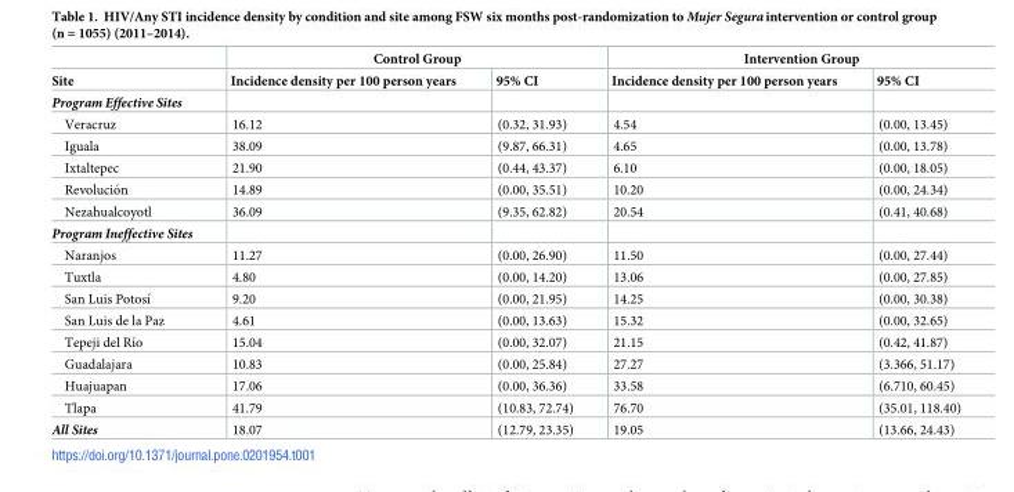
<table><thead><tr><td rowspan="2">Site</td><td colspan="2">Control Group</td><td colspan="2">Intervention Group</td></tr><tr><td>Incidence density per 100 person years</td><td>95% CI</td><td>Incidence density per 100 person years</td><td>95% CI</td></tr></thead><tbody><tr><td colspan="5">Program Effective Sites</td></tr><tr><td>Veracruz</td><td>16.12</td><td>(0.32, 31.93)</td><td>4.54</td><td>(0.00, 13.45)</td></tr><tr><td>Iguala</td><td>38.09</td><td>(9.87, 66.31)</td><td>4.65</td><td>(0.00, 13.78)</td></tr><tr><td>Ixtaltepec</td><td>21.90</td><td>(0.44, 43.37)</td><td>6.10</td><td>(0.00, 18.05)</td></tr><tr><td>Revolucio´n</td><td>14.89</td><td>(0.00, 35.51)</td><td>10.20</td><td>(0.00, 24.34)</td></tr><tr><td>Nezahualcoyotl</td><td>36.09</td><td>(9.35, 62.82)</td><td>20.54</td><td>(0.41, 40.68)</td></tr><tr><td colspan="5">Program Ineffective Sites</td></tr><tr><td>Naranjos</td><td>11.27</td><td>(0.00, 26.90)</td><td>11.50</td><td>(0.00, 27.44)</td></tr><tr><td>Tuxtla</td><td>4.80</td><td>(0.00, 14.20)</td><td>13.06</td><td>(0.00, 27.85)</td></tr><tr><td>San Luis Potosı´</td><td>9.20</td><td>(0.00, 21.95)</td><td>14.25</td><td>(0.00, 30.38)</td></tr><tr><td>San Luis de la Paz</td><td>4.61</td><td>(0.00, 13.63)</td><td>15.32</td><td>(0.00, 32.65)</td></tr><tr><td>Tepeji del Rı´o</td><td>15.04</td><td>(0.00, 32.07)</td><td>21.15</td><td>(0.42, 41.87)</td></tr><tr><td>Guadalajara</td><td>10.83</td><td>(0.00, 25.84)</td><td>27.27</td><td>(3.366, 51.17)</td></tr><tr><td>Huajuapan</td><td>17.06</td><td>(0.00, 36.36)</td><td>33.58</td><td>(6.710, 60.45)</td></tr><tr><td>Tlapa</td><td>41.79</td><td>(10.83, 72.74)</td><td>76.70</td><td>(35.01, 118.40)</td></tr><tr><td>All Sites</td><td>18.07</td><td>(12.79, 23.35)</td><td>19.05</td><td>(13.66, 24.43)</td></tr></tbody></table>